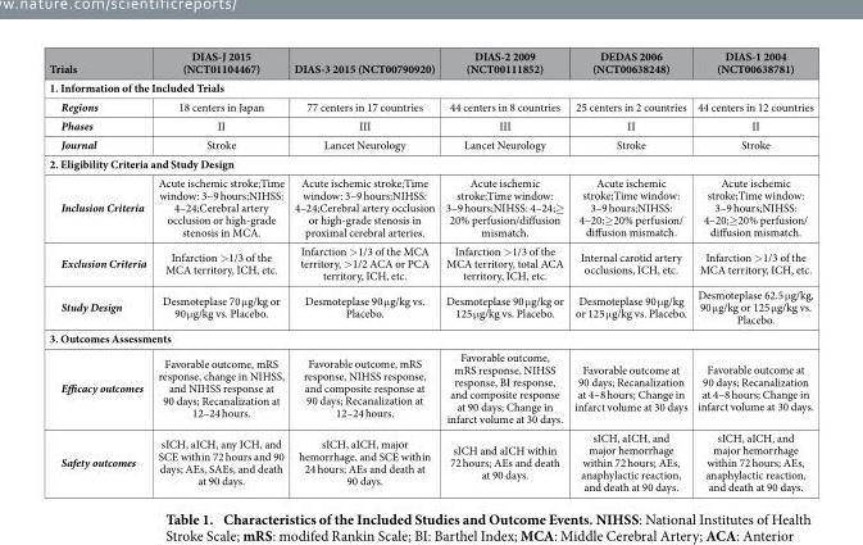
<table><thead><tr><td>Trials</td><td>DIAS-J 2015 (NCT01104467)</td><td>DIAS-3 2015 (NCT00790920)</td><td>DIAS-2 2009 (NCT00111852)</td><td>DEDAS 2006 (NCT00638248)</td><td>DIAS-1 2004 (NCT00638781)</td></tr></thead><tbody><tr><td colspan="6">1. Information of the Included Trials</td></tr><tr><td>Regions</td><td>18 centers in Japan</td><td>77 centers in 17 countries</td><td>44 centers in 8 countries</td><td>25 centers in 2 countries</td><td>44 centers in 12 countries</td></tr><tr><td>Phases</td><td>II</td><td>III</td><td>III</td><td>II</td><td>II</td></tr><tr><td>Journal</td><td>Stroke</td><td>Lancet Neurology</td><td>Lancet Neurology</td><td>Stroke</td><td>Stroke</td></tr><tr><td colspan="6">2. Eligibility Criteria and Study Design</td></tr><tr><td>Inclusion Criteria</td><td>Acute ischemic stroke;Time window: 3–9 hours;NIHSS: 4–24;Cerebral artery occlusion or high-grade stenosis in MCA.</td><td>Acute ischemic stroke;Time window: 3–9 hours;NIHSS: 4–24;Cerebral artery occlusion or high-grade stenosis in proximal cerebral arteries.</td><td>Acute ischemic stroke;Time window: 3–9 hours;NIHSS: 4–24;≥ 20% perfusion/diffusion mismatch.</td><td>Acute ischemic stroke;Time window: 3–9 hours;NIHSS: 4–20;≥ 20% perfusion/ diffusion mismatch.</td><td>Acute ischemic stroke;Time window: 3–9 hours;NIHSS: 4–20;≥ 20% perfusion/ diffusion mismatch.</td></tr><tr><td>Exclusion Criteria</td><td>Infarction &gt; 1/3 of the MCA territory, ICH, etc.</td><td>Infarction &gt; 1/3 of the MCA territory, &gt; 1/2 ACA or PCA territory, ICH, etc.</td><td>Infarction &gt; 1/3 of the MCA territory, total ACA territory, ICH, etc.</td><td>Internal carotid artery occlusions, ICH, etc.</td><td>Infarction &gt; 1/3 of the MCA territory, ICH, etc.</td></tr><tr><td>Study Design</td><td>Desmoteplase 70 μ g/kg or 90 μ g/kg vs. Placebo.</td><td>Desmoteplase 90 μ g/kg vs. Placebo.</td><td>Desmoteplase 90 μ g/kg or 125 μ g/kg vs. Placebo.</td><td>Desmoteplase 90 μ g/kg or 125 μ g/kg vs. Placebo.</td><td>Desmoteplase 62.5 μ g/kg, 90 μ g/kg or 125 μ g/kg vs. Placebo.</td></tr><tr><td colspan="6">3. Outcomes Assessments</td></tr><tr><td>Efficacy outcomes</td><td>Favorable outcome, mRS response, change in NIHSS, and NIHSS response at 90 days; Recanalization at 12–24 hours.</td><td>Favorable outcome, mRS response, NIHSS response, and composite response at 90 days; Recanalization at 12–24 hours.</td><td>Favorable outcome, mRS response, NIHSS response, BI response, and composite response at 90 days; Change in infarct volume at 30 days.</td><td>Favorable outcome at 90 days; Recanalization at 4–8 hours; Change in infarct volume at 30 days</td><td>Favorable outcome at 90 days; Recanalization at 4–8 hours; Change in infarct volume at 30 days.</td></tr><tr><td>Safety outcomes</td><td>sICH, aICH, any ICH, and SCE within 72 hours and 90 days; AEs, SAEs, and death at 90 days.</td><td>sICH, aICH, major hemorrhage, and SCE within 24 hours; AEs and death at 90 days.</td><td>sICH and aICH within 72 hours; AEs and death at 90 days.</td><td>sICH, aICH, and major hemorrhage within 72 hours; AEs, anaphylactic reaction, and death at 90 days.</td><td>sICH, aICH, and major hemorrhage within 72 hours; AEs, anaphylactic reaction, and death at 90 days.</td></tr></tbody></table>